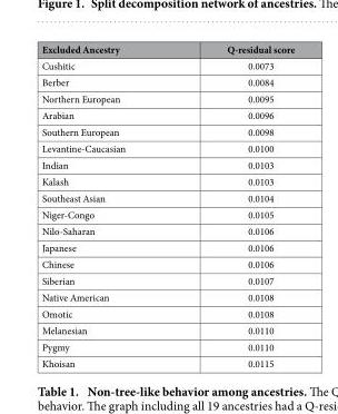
<table><thead><tr><td>Excluded Ancestry</td><td>Q-residual score</td></tr></thead><tbody><tr><td>Cushitic</td><td>0.0073</td></tr><tr><td>Berber</td><td>0.0084</td></tr><tr><td>Northern European</td><td>0.0095</td></tr><tr><td>Arabian</td><td>0.0096</td></tr><tr><td>Southern European</td><td>0.0098</td></tr><tr><td>Levantine-Caucasian</td><td>0.0100</td></tr><tr><td>Indian</td><td>0.0103</td></tr><tr><td>Kalash</td><td>0.0103</td></tr><tr><td>Southeast Asian</td><td>0.0104</td></tr><tr><td>Niger-Congo</td><td>0.0105</td></tr><tr><td>Nilo-Saharan</td><td>0.0106</td></tr><tr><td>Japanese</td><td>0.0106</td></tr><tr><td>Chinese</td><td>0.0106</td></tr><tr><td>Siberian</td><td>0.0107</td></tr><tr><td>Native American</td><td>0.0108</td></tr><tr><td>Omotic</td><td>0.0108</td></tr><tr><td>Melanesian</td><td>0.0110</td></tr><tr><td>Pygmy</td><td>0.0110</td></tr><tr><td>Khoisan</td><td>0.0115</td></tr></tbody></table>